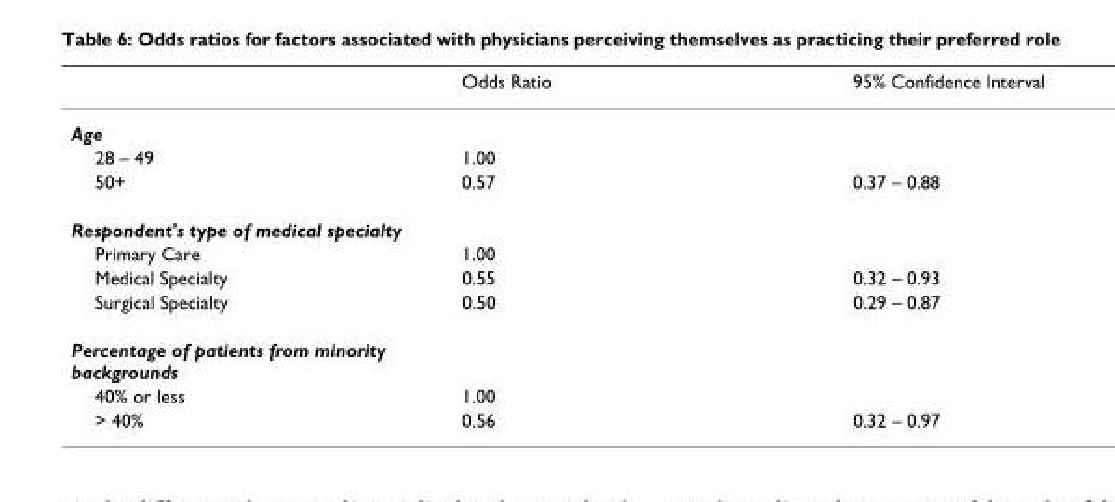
<table><thead><tr><td></td><td>Odds Ratio</td><td>95% Confidence Interval</td></tr></thead><tbody><tr><td colspan="3">Age</td></tr><tr><td>28 – 49</td><td>1.00</td><td></td></tr><tr><td>50+</td><td>0.57</td><td>0.37 – 0.88</td></tr><tr><td colspan="3">Respondent&#x27;s type of medical specialty</td></tr><tr><td>Primary Care</td><td>1.00</td><td></td></tr><tr><td>Medical Specialty</td><td>0.55</td><td>0.32 – 0.93</td></tr><tr><td>Surgical Specialty</td><td>0.50</td><td>0.29 – 0.87</td></tr><tr><td colspan="3">Percentage of patients from minority backgrounds</td></tr><tr><td>40% or less</td><td>1.00</td><td></td></tr><tr><td>&gt; 40%</td><td>0.56</td><td>0.32 – 0.97</td></tr></tbody></table>